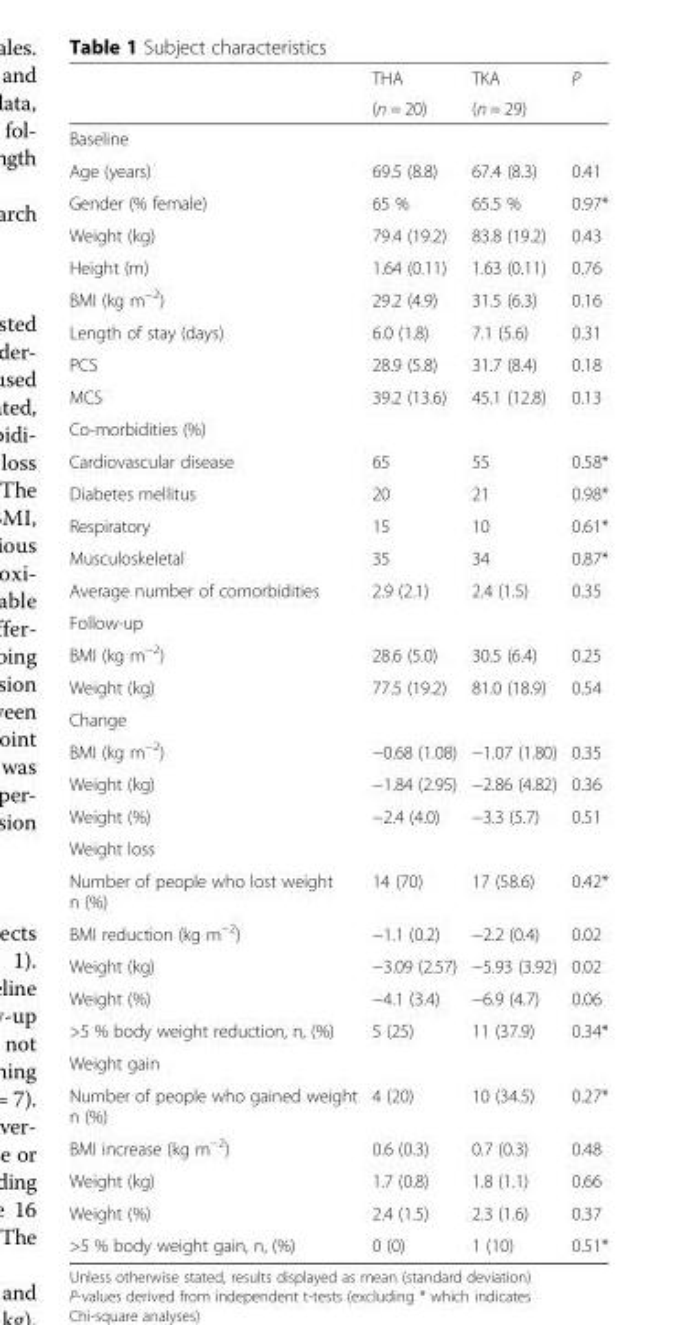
<table><thead><tr><td rowspan="2"></td><td rowspan="2">THA (n = 20)</td><td rowspan="2">TKA (n = 29)</td><td rowspan="2">P</td></tr><tr></tr></thead><tbody><tr><td colspan="4">Baseline</td></tr><tr><td>Age (years)</td><td>69.5 (8.8)</td><td>67.4 (8.3)</td><td>0.41</td></tr><tr><td>Gender (% female)</td><td>65 %</td><td>65.5 %</td><td>0.97*</td></tr><tr><td>Weight (kg)</td><td>79.4 (19.2)</td><td>83.8 (19.2)</td><td>0.43</td></tr><tr><td>Height (m)</td><td>1.64 (0.11)</td><td>1.63 (0.11)</td><td>0.76</td></tr><tr><td>BMI (kg m<sup>−2</sup>)</td><td>29.2 (4.9)</td><td>31.5 (6.3)</td><td>0.16</td></tr><tr><td>Length of stay (days)</td><td>6.0 (1.8)</td><td>7.1 (5.6)</td><td>0.31</td></tr><tr><td>PCS</td><td>28.9 (5.8)</td><td>31.7 (8.4)</td><td>0.18</td></tr><tr><td>MCS</td><td>39.2 (13.6)</td><td>45.1 (12.8)</td><td>0.13</td></tr><tr><td colspan="4">Co-morbidities (%)</td></tr><tr><td>Cardiovascular disease</td><td>65</td><td>55</td><td>0.58*</td></tr><tr><td>Diabetes mellitus</td><td>20</td><td>21</td><td>0.98*</td></tr><tr><td>Respiratory</td><td>15</td><td>10</td><td>0.61*</td></tr><tr><td>Musculoskeletal</td><td>35</td><td>34</td><td>0.87*</td></tr><tr><td>Average number of comorbidities</td><td>2.9 (2.1)</td><td>2.4 (1.5)</td><td>0.35</td></tr><tr><td colspan="4">Follow-up</td></tr><tr><td>BMI (kg m<sup>−2</sup>)</td><td>28.6 (5.0)</td><td>30.5 (6.4)</td><td>0.25</td></tr><tr><td>Weight (kg)</td><td>77.5 (19.2)</td><td>81.0 (18.9)</td><td>0.54</td></tr><tr><td colspan="4">Change</td></tr><tr><td>BMI (kg m<sup>−2</sup>)</td><td>−0.68 (1.08)</td><td>−1.07 (1.80)</td><td>0.35</td></tr><tr><td>Weight (kg)</td><td>−1.84 (2.95)</td><td>−2.86 (4.82)</td><td>0.36</td></tr><tr><td>Weight (%)</td><td>−2.4 (4.0)</td><td>−3.3 (5.7)</td><td>0.51</td></tr><tr><td colspan="4">Weight loss</td></tr><tr><td>Number of people who lost weight n (%)</td><td>14 (70)</td><td>17 (58.6)</td><td>0.42*</td></tr><tr><td>BMI reduction (kg m<sup>−2</sup>)</td><td>−1.1 (0.2)</td><td>−2.2 (0.4)</td><td>0.02</td></tr><tr><td>Weight (kg)</td><td>−3.09 (2.57)</td><td>−5.93 (3.92)</td><td>0.02</td></tr><tr><td>Weight (%)</td><td>−4.1 (3.4)</td><td>−6.9 (4.7)</td><td>0.06</td></tr><tr><td>&gt;5 % body weight reduction, n, (%)</td><td>5 (25)</td><td>11 (37.9)</td><td>0.34*</td></tr><tr><td colspan="4">Weight gain</td></tr><tr><td>Number of people who gained weight n (%)</td><td>4 (20)</td><td>10 (34.5)</td><td>0.27*</td></tr><tr><td>BMI increase (kg m<sup>−2</sup>)</td><td>0.6 (0.3)</td><td>0.7 (0.3)</td><td>0.48</td></tr><tr><td>Weight (kg)</td><td>1.7 (0.8)</td><td>1.8 (1.1)</td><td>0.66</td></tr><tr><td>Weight (%)</td><td>2.4 (1.5)</td><td>2.3 (1.6)</td><td>0.37</td></tr><tr><td>&gt;5 % body weight gain, n, (%)</td><td>0 (0)</td><td>1 (10)</td><td>0.51*</td></tr></tbody></table>